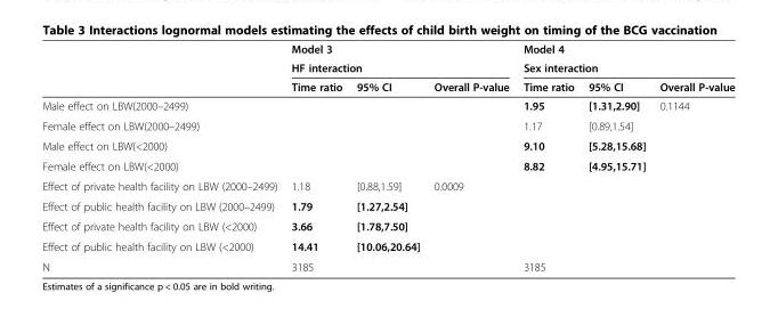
<table><thead><tr><td rowspan="3"></td><td rowspan="2" colspan="3">Model 3 HF interaction</td><td rowspan="2" colspan="3">Model 4 Sex interaction</td></tr><tr></tr><tr><td>Time ratio</td><td>95% CI</td><td>Overall P-value</td><td>Time ratio</td><td>95% CI</td><td>Overall P-value</td></tr></thead><tbody><tr><td>Male effect on LBW(2000–2499)</td><td></td><td></td><td></td><td>1.95</td><td>[1.31,2.90]</td><td>0.1144</td></tr><tr><td>Female effect on LBW(2000–2499)</td><td></td><td></td><td></td><td>1.17</td><td>[0.89,1.54]</td><td></td></tr><tr><td>Male effect on LBW(&lt;2000)</td><td></td><td></td><td></td><td>9.10</td><td>[5.28,15.68]</td><td></td></tr><tr><td>Female effect on LBW(&lt;2000)</td><td></td><td></td><td></td><td>8.82</td><td>[4.95,15.71]</td><td></td></tr><tr><td>Effect of private health facility on LBW (2000–2499)</td><td>1.18</td><td>[0.88,1.59]</td><td>0.0009</td><td></td><td></td><td></td></tr><tr><td>Effect of public health facility on LBW (2000–2499)</td><td>1.79</td><td>[1.27,2.54]</td><td></td><td></td><td></td><td></td></tr><tr><td>Effect of private health facility on LBW (&lt;2000)</td><td>3.66</td><td>[1.78,7.50]</td><td></td><td></td><td></td><td></td></tr><tr><td>Effect of public health facility on LBW (&lt;2000)</td><td>14.41</td><td>[10.06,20.64]</td><td></td><td></td><td></td><td></td></tr><tr><td>N</td><td colspan="3">3185</td><td colspan="3">3185</td></tr></tbody></table>